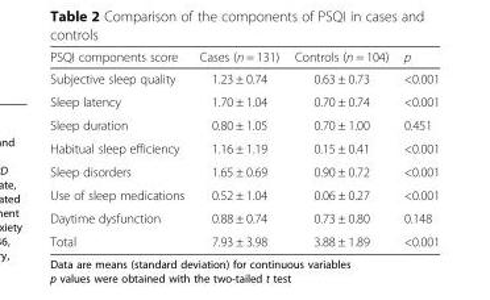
<table><thead><tr><td>PSQI components score</td><td>Cases (n = 131)</td><td>Controls (n = 104)</td><td>p</td></tr></thead><tbody><tr><td>Subjective sleep quality</td><td>1.23 ± 0.74</td><td>0.63 ± 0.73</td><td>&lt;0.001</td></tr><tr><td>Sleep latency</td><td>1.70 ± 1.04</td><td>0.70 ± 0.74</td><td>&lt;0.001</td></tr><tr><td>Sleep duration</td><td>0.80 ± 1.05</td><td>0.70 ± 1.00</td><td>0.451</td></tr><tr><td>Habitual sleep efficiency</td><td>1.16 ± 1.19</td><td>0.15 ± 0.41</td><td>&lt;0.001</td></tr><tr><td>Sleep disorders</td><td>1.65 ± 0.69</td><td>0.90 ± 0.72</td><td>&lt;0.001</td></tr><tr><td>Use of sleep medications</td><td>0.52 ± 1.04</td><td>0.06 ± 0.27</td><td>&lt;0.001</td></tr><tr><td>Daytime dysfunction</td><td>0.88 ± 0.74</td><td>0.73 ± 0.80</td><td>0.148</td></tr><tr><td>Total</td><td>7.93 ± 3.98</td><td>3.88 ± 1.89</td><td>&lt;0.001</td></tr></tbody></table>